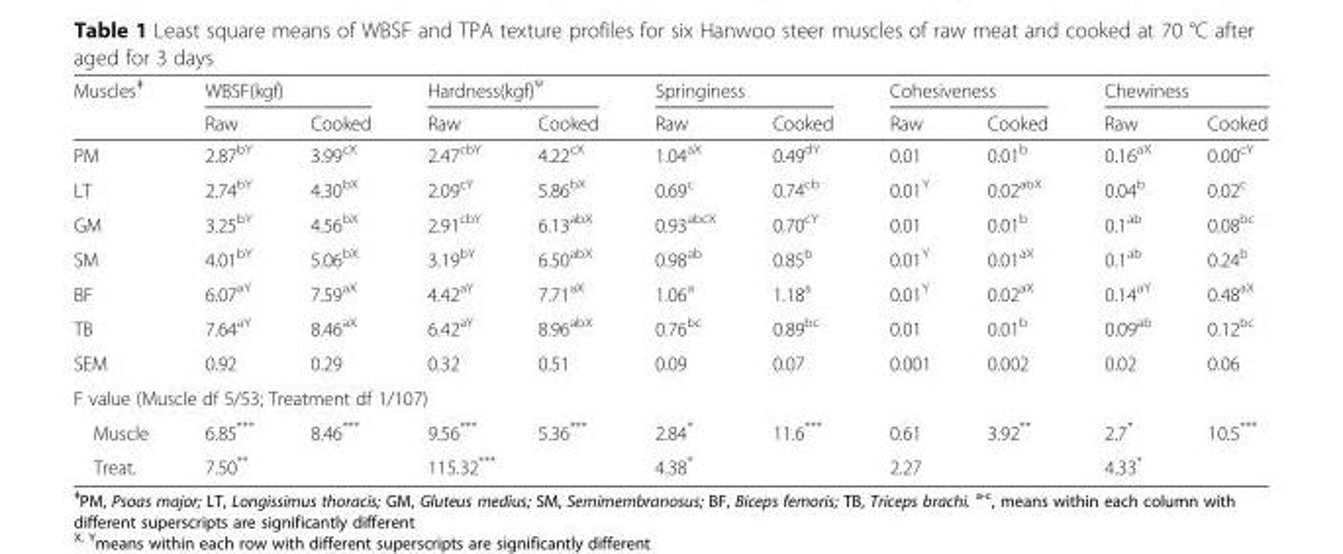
<table><thead><tr><td rowspan="2">Muscles<sup>ǂ</sup></td><td colspan="2">WBSF(kgf)</td><td colspan="2">Hardness(kgf)<sup>Ψ</sup></td><td colspan="2">Springiness</td><td colspan="2">Cohesiveness</td><td colspan="2">Chewiness</td></tr><tr><td>Raw</td><td>Cooked</td><td>Raw</td><td>Cooked</td><td>Raw</td><td>Cooked</td><td>Raw</td><td>Cooked</td><td>Raw</td><td>Cooked</td></tr></thead><tbody><tr><td>PM</td><td>2.87<sup>bY</sup></td><td>3.99<sup>cX</sup></td><td>2.47<sup>cbY</sup></td><td>4.22<sup>cX</sup></td><td>1.04<sup>aX</sup></td><td>0.49<sup>dY</sup></td><td>0.01</td><td>0.01<sup>b</sup></td><td>0.16<sup>aX</sup></td><td>0.00<sup>cY</sup></td></tr><tr><td>LT</td><td>2.74<sup>bY</sup></td><td>4.30<sup>bX</sup></td><td>2.09<sup>cY</sup></td><td>5.86<sup>bX</sup></td><td>0.69<sup>c</sup></td><td>0.74<sup>cb</sup></td><td>0.01<sup>Y</sup></td><td>0.02<sup>abX</sup></td><td>0.04<sup>b</sup></td><td>0.02<sup>c</sup></td></tr><tr><td>GM</td><td>3.25<sup>bY</sup></td><td>4.56<sup>bX</sup></td><td>2.91<sup>cbY</sup></td><td>6.13<sup>abX</sup></td><td>0.93<sup>abcX</sup></td><td>0.70<sup>cY</sup></td><td>0.01</td><td>0.01<sup>b</sup></td><td>0.1<sup>ab</sup></td><td>0.08<sup>bc</sup></td></tr><tr><td>SM</td><td>4.01<sup>bY</sup></td><td>5.06<sup>bX</sup></td><td>3.19<sup>bY</sup></td><td>6.50<sup>abX</sup></td><td>0.98<sup>ab</sup></td><td>0.85<sup>b</sup></td><td>0.01<sup>Y</sup></td><td>0.01<sup>aX</sup></td><td>0.1<sup>ab</sup></td><td>0.24<sup>b</sup></td></tr><tr><td>BF</td><td>6.07<sup>aY</sup></td><td>7.59<sup>aX</sup></td><td>4.42<sup>aY</sup></td><td>7.71<sup>aX</sup></td><td>1.06<sup>a</sup></td><td>1.18<sup>a</sup></td><td>0.01<sup>Y</sup></td><td>0.02<sup>aX</sup></td><td>0.14<sup>aY</sup></td><td>0.48<sup>aX</sup></td></tr><tr><td>TB</td><td>7.64<sup>aY</sup></td><td>8.46<sup>aX</sup></td><td>6.42<sup>aY</sup></td><td>8.96<sup>abX</sup></td><td>0.76<sup>bc</sup></td><td>0.89<sup>bc</sup></td><td>0.01</td><td>0.01<sup>b</sup></td><td>0.09<sup>ab</sup></td><td>0.12<sup>bc</sup></td></tr><tr><td>SEM</td><td>0.92</td><td>0.29</td><td>0.32</td><td>0.51</td><td>0.09</td><td>0.07</td><td>0.001</td><td>0.002</td><td>0.02</td><td>0.06</td></tr><tr><td colspan="11">F value (Muscle df 5/53; Treatment df 1/107)</td></tr><tr><td>Muscle</td><td>6.85***</td><td>8.46***</td><td>9.56***</td><td>5.36***</td><td>2.84*</td><td>11.6***</td><td>0.61</td><td>3.92**</td><td>2.7*</td><td>10.5***</td></tr><tr><td>Treat.</td><td colspan="2">7.50**</td><td colspan="2">115.32***</td><td colspan="2">4.38*</td><td colspan="2">2.27</td><td colspan="2">4.33*</td></tr></tbody></table>